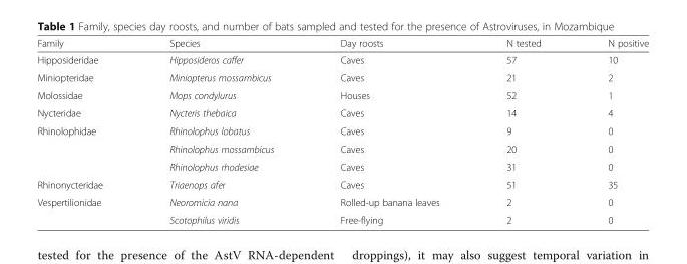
<table><thead><tr><td>Family</td><td>Species</td><td>Day roosts</td><td>N tested</td><td>N positive</td></tr></thead><tbody><tr><td>Hipposideridae</td><td>Hipposideros caffer</td><td>Caves</td><td>57</td><td>10</td></tr><tr><td>Miniopteridae</td><td>Miniopterus mossambicus</td><td>Caves</td><td>21</td><td>2</td></tr><tr><td>Molossidae</td><td>Mops condylurus</td><td>Houses</td><td>52</td><td>1</td></tr><tr><td>Nycteridae</td><td>Nycteris thebaica</td><td>Caves</td><td>14</td><td>4</td></tr><tr><td rowspan="3">Rhinolophidae</td><td>Rhinolophus lobatus</td><td>Caves</td><td>9</td><td>0</td></tr><tr><td>Rhinolophus mossambicus</td><td>Caves</td><td>20</td><td>0</td></tr><tr><td>Rhinolophus rhodesiae</td><td>Caves</td><td>31</td><td>0</td></tr><tr><td>Rhinonycteridae</td><td>Triaenops afer</td><td>Caves</td><td>51</td><td>35</td></tr><tr><td rowspan="2">Vespertilionidae</td><td>Neoromicia nana</td><td>Rolled-up banana leaves</td><td>2</td><td>0</td></tr><tr><td>Scotophilus viridis</td><td>Free-flying</td><td>2</td><td>0</td></tr></tbody></table>